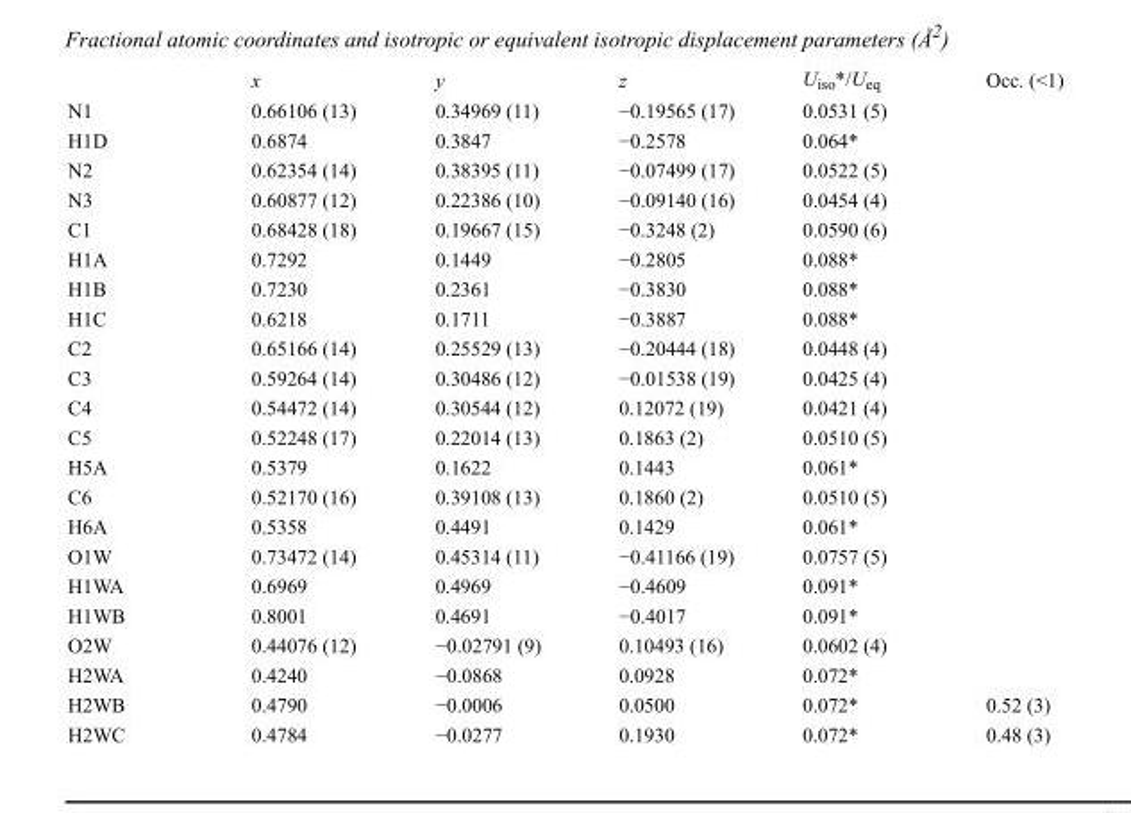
<table><thead><tr><td></td><td>x</td><td>y</td><td>z</td><td>U<sub>iso</sub>*/U<sub>eq</sub></td><td>Occ. (&lt;1)</td></tr></thead><tbody><tr><td>N1</td><td>0.66106 (13)</td><td>0.34969 (11)</td><td>−0.19565 (17)</td><td>0.0531 (5)</td><td></td></tr><tr><td>H1D</td><td>0.6874</td><td>0.3847</td><td>−0.2578</td><td>0.064*</td><td></td></tr><tr><td>N2</td><td>0.62354 (14)</td><td>0.38395 (11)</td><td>−0.07499 (17)</td><td>0.0522 (5)</td><td></td></tr><tr><td>N3</td><td>0.60877 (12)</td><td>0.22386 (10)</td><td>−0.09140 (16)</td><td>0.0454 (4)</td><td></td></tr><tr><td>C1</td><td>0.68428 (18)</td><td>0.19667 (15)</td><td>−0.3248 (2)</td><td>0.0590 (6)</td><td></td></tr><tr><td>H1A</td><td>0.7292</td><td>0.1449</td><td>−0.2805</td><td>0.088*</td><td></td></tr><tr><td>H1B</td><td>0.7230</td><td>0.2361</td><td>−0.3830</td><td>0.088*</td><td></td></tr><tr><td>H1C</td><td>0.6218</td><td>0.1711</td><td>−0.3887</td><td>0.088*</td><td></td></tr><tr><td>C2</td><td>0.65166 (14)</td><td>0.25529 (13)</td><td>−0.20444 (18)</td><td>0.0448 (4)</td><td></td></tr><tr><td>C3</td><td>0.59264 (14)</td><td>0.30486 (12)</td><td>−0.01538 (19)</td><td>0.0425 (4)</td><td></td></tr><tr><td>C4</td><td>0.54472 (14)</td><td>0.30544 (12)</td><td>0.12072 (19)</td><td>0.0421 (4)</td><td></td></tr><tr><td>C5</td><td>0.52248 (17)</td><td>0.22014 (13)</td><td>0.1863 (2)</td><td>0.0510 (5)</td><td></td></tr><tr><td>H5A</td><td>0.5379</td><td>0.1622</td><td>0.1443</td><td>0.061*</td><td></td></tr><tr><td>C6</td><td>0.52170 (16)</td><td>0.39108 (13)</td><td>0.1860 (2)</td><td>0.0510 (5)</td><td></td></tr><tr><td>H6A</td><td>0.5358</td><td>0.4491</td><td>0.1429</td><td>0.061*</td><td></td></tr><tr><td>O1W</td><td>0.73472 (14)</td><td>0.45314 (11)</td><td>−0.41166 (19)</td><td>0.0757 (5)</td><td></td></tr><tr><td>H1WA</td><td>0.6969</td><td>0.4969</td><td>−0.4609</td><td>0.091*</td><td></td></tr><tr><td>H1WB</td><td>0.8001</td><td>0.4691</td><td>−0.4017</td><td>0.091*</td><td></td></tr><tr><td>O2W</td><td>0.44076 (12)</td><td>−0.02791 (9)</td><td>0.10493 (16)</td><td>0.0602 (4)</td><td></td></tr><tr><td>H2WA</td><td>0.4240</td><td>−0.0868</td><td>0.0928</td><td>0.072*</td><td></td></tr><tr><td>H2WB</td><td>0.4790</td><td>−0.0006</td><td>0.0500</td><td>0.072*</td><td>0.52 (3)</td></tr><tr><td>H2WC</td><td>0.4784</td><td>−0.0277</td><td>0.1930</td><td>0.072*</td><td>0.48 (3)</td></tr></tbody></table>